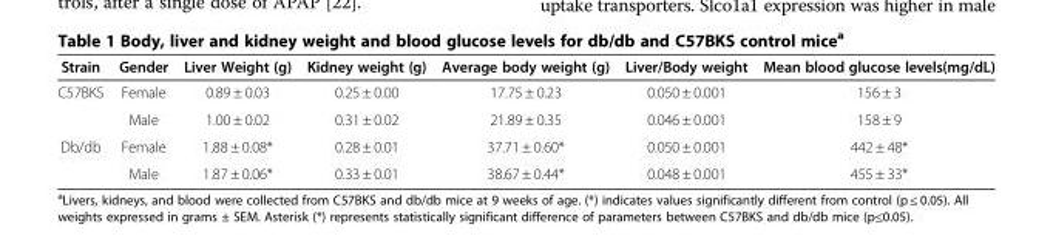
<table><thead><tr><td>Strain</td><td>Gender</td><td>Liver Weight (g)</td><td>Kidney weight (g)</td><td>Average body weight (g)</td><td>Liver/Body weight</td><td>Mean blood glucose levels(mg/dL)</td></tr></thead><tbody><tr><td rowspan="2">C57BKS</td><td>Female</td><td>0.89 ± 0.03</td><td>0.25 ± 0.00</td><td>17.75 ± 0.23</td><td>0.050 ± 0.001</td><td>156 ± 3</td></tr><tr><td>Male</td><td>1.00 ± 0.02</td><td>0.31 ± 0.02</td><td>21.89 ± 0.35</td><td>0.046 ± 0.001</td><td>158 ± 9</td></tr><tr><td rowspan="2">Db/db</td><td>Female</td><td>1.88 ± 0.08*</td><td>0.28 ± 0.01</td><td>37.71 ± 0.60*</td><td>0.050 ± 0.001</td><td>442 ± 48*</td></tr><tr><td>Male</td><td>1.87 ± 0.06*</td><td>0.33 ± 0.01</td><td>38.67 ± 0.44*</td><td>0.048 ± 0.001</td><td>455 ± 33*</td></tr></tbody></table>